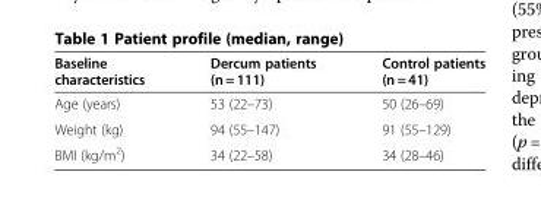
<table><thead><tr><td>Baseline characteristics</td><td>Dercum patients (n = 111)</td><td>Control patients (n = 41)</td></tr></thead><tbody><tr><td>Age (years)</td><td>53 (22–73)</td><td>50 (26–69)</td></tr><tr><td>Weight (kg)</td><td>94 (55–147)</td><td>91 (55–129)</td></tr><tr><td>BMI (kg/m<sup>2</sup>)</td><td>34 (22–58)</td><td>34 (28–46)</td></tr></tbody></table>